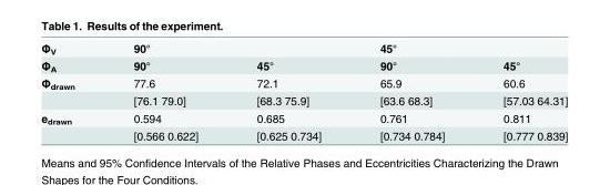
<table><tbody><tr><td>Φ<sub>V</sub></td><td colspan="2">90°</td><td colspan="2">45°</td></tr><tr><td>Φ<sub>A</sub></td><td>90°</td><td>45°</td><td>90°</td><td>45°</td></tr><tr><td rowspan="2">Φ<sub>drawn</sub></td><td>77.6</td><td>72.1</td><td>65.9</td><td>60.6</td></tr><tr><td>[76.1 79.0]</td><td>[68.3 75.9]</td><td>[63.6 68.3]</td><td>[57.03 64.31]</td></tr><tr><td rowspan="2">e<sub>drawn</sub></td><td>0.594</td><td>0.685</td><td>0.761</td><td>0.811</td></tr><tr><td>[0.566 0.622]</td><td>[0.625 0.734]</td><td>[0.734 0.784]</td><td>[0.777 0.839]</td></tr></tbody></table>